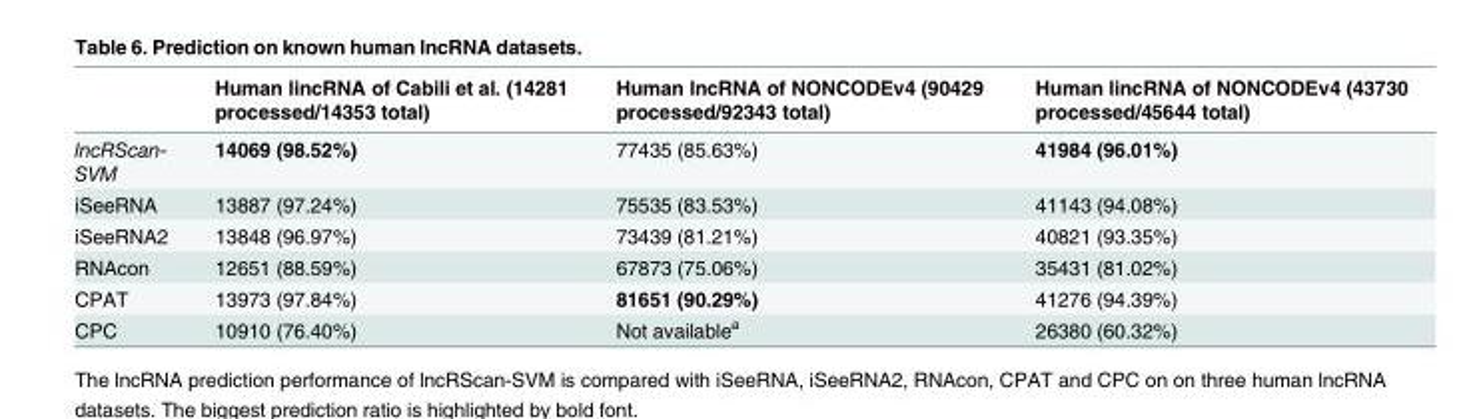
<table><thead><tr><td></td><td>Human lincRNA of Cabili et al. (14281 processed/14353 total)</td><td>Human lncRNA of NONCODEv4 (90429 processed/92343 total)</td><td>Human lincRNA of NONCODEv4 (43730 processed/45644 total)</td></tr></thead><tbody><tr><td>lncRScan- SVM</td><td>14069 (98.52%)</td><td>77435 (85.63%)</td><td>41984 (96.01%)</td></tr><tr><td>iSeeRNA</td><td>13887 (97.24%)</td><td>75535 (83.53%)</td><td>41143 (94.08%)</td></tr><tr><td>iSeeRNA2</td><td>13848 (96.97%)</td><td>73439 (81.21%)</td><td>40821 (93.35%)</td></tr><tr><td>RNAcon</td><td>12651 (88.59%)</td><td>67873 (75.06%)</td><td>35431 (81.02%)</td></tr><tr><td>CPAT</td><td>13973 (97.84%)</td><td>81651 (90.29%)</td><td>41276 (94.39%)</td></tr><tr><td>CPC</td><td>10910 (76.40%)</td><td>Not available<sup>a</sup></td><td>26380 (60.32%)</td></tr></tbody></table>